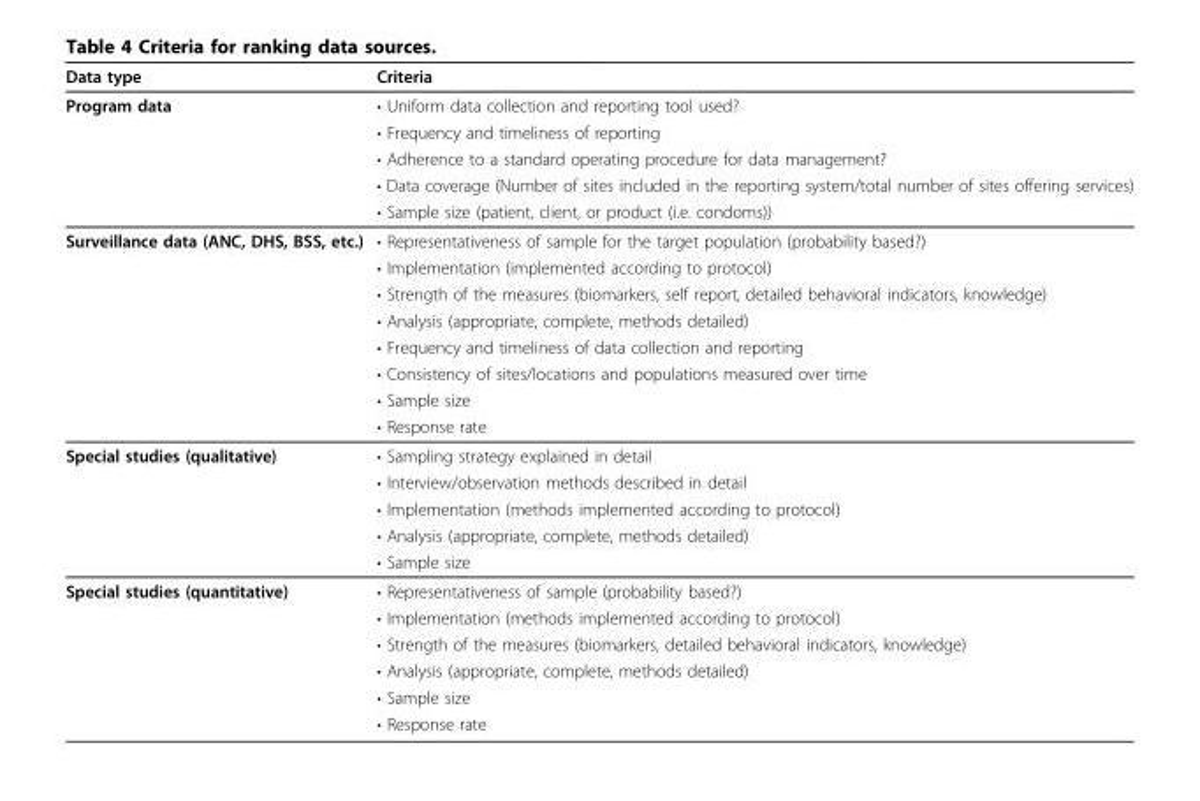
<table><thead><tr><td>Data type</td><td>Criteria</td></tr></thead><tbody><tr><td rowspan="5">Program data</td><td>• Uniform data collection and reporting tool used?</td></tr><tr><td>• Frequency and timeliness of reporting</td></tr><tr><td>• Adherence to a standard operating procedure for data management?</td></tr><tr><td>• Data coverage (Number of sites included in the reporting system/total number of sites offering services)</td></tr><tr><td>• Sample size (patient, client, or product (i.e. condoms))</td></tr><tr><td rowspan="8">Surveillance data (ANC, DHS, BSS, etc.)</td><td>• Representativeness of sample for the target population (probability based?)</td></tr><tr><td>• Implementation (implemented according to protocol)</td></tr><tr><td>• Strength of the measures (biomarkers, self report, detailed behavioral indicators, knowledge)</td></tr><tr><td>• Analysis (appropriate, complete, methods detailed)</td></tr><tr><td>• Frequency and timeliness of data collection and reporting</td></tr><tr><td>• Consistency of sites/locations and populations measured over time</td></tr><tr><td>• Sample size</td></tr><tr><td>• Response rate</td></tr><tr><td rowspan="5">Special studies (qualitative)</td><td>• Sampling strategy explained in detail</td></tr><tr><td>• Interview/observation methods described in detail</td></tr><tr><td>• Implementation (methods implemented according to protocol)</td></tr><tr><td>• Analysis (appropriate, complete, methods detailed)</td></tr><tr><td>• Sample size</td></tr><tr><td rowspan="6">Special studies (quantitative)</td><td>• Representativeness of sample (probability based?)</td></tr><tr><td>• Implementation (methods implemented according to protocol)</td></tr><tr><td>• Strength of the measures (biomarkers, detailed behavioral indicators, knowledge)</td></tr><tr><td>• Analysis (appropriate, complete, methods detailed)</td></tr><tr><td>• Sample size</td></tr><tr><td>• Response rate</td></tr></tbody></table>